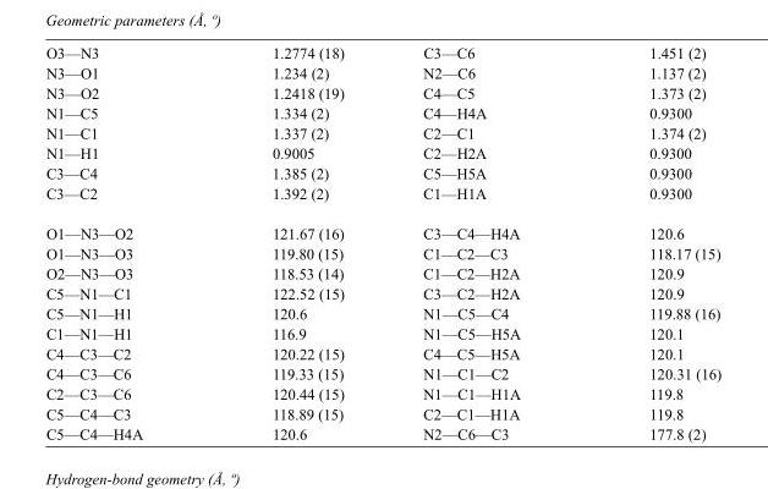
<table><tbody><tr><td>O3—N3</td><td>1.2774 (18)</td><td>C3—C6</td><td>1.451 (2)</td></tr><tr><td>N3—O1</td><td>1.234 (2)</td><td>N2—C6</td><td>1.137 (2)</td></tr><tr><td>N3—O2</td><td>1.2418 (19)</td><td>C4—C5</td><td>1.373 (2)</td></tr><tr><td>N1—C5</td><td>1.334 (2)</td><td>C4—H4A</td><td>0.9300</td></tr><tr><td>N1—C1</td><td>1.337 (2)</td><td>C2—C1</td><td>1.374 (2)</td></tr><tr><td>N1—H1</td><td>0.9005</td><td>C2—H2A</td><td>0.9300</td></tr><tr><td>C3—C4</td><td>1.385 (2)</td><td>C5—H5A</td><td>0.9300</td></tr><tr><td>C3—C2</td><td>1.392 (2)</td><td>C1—H1A</td><td>0.9300</td></tr><tr><td>O1—N3—O2</td><td>121.67 (16)</td><td>C3—C4—H4A</td><td>120.6</td></tr><tr><td>O1—N3—O3</td><td>119.80 (15)</td><td>C1—C2—C3</td><td>118.17 (15)</td></tr><tr><td>O2—N3—O3</td><td>118.53 (14)</td><td>C1—C2—H2A</td><td>120.9</td></tr><tr><td>C5—N1—C1</td><td>122.52 (15)</td><td>C3—C2—H2A</td><td>120.9</td></tr><tr><td>C5—N1—H1</td><td>120.6</td><td>N1—C5—C4</td><td>119.88 (16)</td></tr><tr><td>C1—N1—H1</td><td>116.9</td><td>N1—C5—H5A</td><td>120.1</td></tr><tr><td>C4—C3—C2</td><td>120.22 (15)</td><td>C4—C5—H5A</td><td>120.1</td></tr><tr><td>C4—C3—C6</td><td>119.33 (15)</td><td>N1—C1—C2</td><td>120.31 (16)</td></tr><tr><td>C2—C3—C6</td><td>120.44 (15)</td><td>N1—C1—H1A</td><td>119.8</td></tr><tr><td>C5—C4—C3</td><td>118.89 (15)</td><td>C2—C1—H1A</td><td>119.8</td></tr><tr><td>C5—C4—H4A</td><td>120.6</td><td>N2—C6—C3</td><td>177.8 (2)</td></tr></tbody></table>